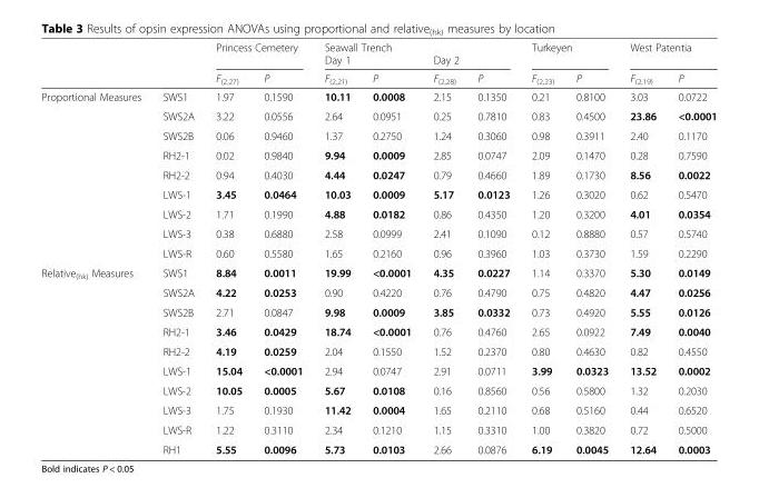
<table><thead><tr><td rowspan="3"></td><td rowspan="3"></td><td rowspan="2" colspan="2">Princess Cemetery</td><td colspan="4">Seawall Trench</td><td rowspan="2" colspan="2">Turkeyen</td><td rowspan="2" colspan="2">West Patentia</td></tr><tr><td colspan="2">Day 1</td><td colspan="2">Day 2</td></tr><tr><td>F<sub>(2,27)</sub></td><td>P</td><td>F<sub>(2,21)</sub></td><td>P</td><td>F<sub>(2,28)</sub></td><td>P</td><td>F<sub>(2,23)</sub></td><td>P</td><td>F<sub>(2,19)</sub></td><td>P</td></tr></thead><tbody><tr><td rowspan="9">Proportional Measures</td><td>SWS1</td><td>1.97</td><td>0.1590</td><td>10.11</td><td>0.0008</td><td>2.15</td><td>0.1350</td><td>0.21</td><td>0.8100</td><td>3.03</td><td>0.0722</td></tr><tr><td>SWS2A</td><td>3.22</td><td>0.0556</td><td>2.64</td><td>0.0951</td><td>0.25</td><td>0.7810</td><td>0.83</td><td>0.4500</td><td>23.86</td><td>&lt;0.0001</td></tr><tr><td>SWS2B</td><td>0.06</td><td>0.9460</td><td>1.37</td><td>0.2750</td><td>1.24</td><td>0.3060</td><td>0.98</td><td>0.3911</td><td>2.40</td><td>0.1170</td></tr><tr><td>RH2-1</td><td>0.02</td><td>0.9840</td><td>9.94</td><td>0.0009</td><td>2.85</td><td>0.0747</td><td>2.09</td><td>0.1470</td><td>0.28</td><td>0.7590</td></tr><tr><td>RH2-2</td><td>0.94</td><td>0.4030</td><td>4.44</td><td>0.0247</td><td>0.79</td><td>0.4660</td><td>1.89</td><td>0.1730</td><td>8.56</td><td>0.0022</td></tr><tr><td>LWS-1</td><td>3.45</td><td>0.0464</td><td>10.03</td><td>0.0009</td><td>5.17</td><td>0.0123</td><td>1.26</td><td>0.3020</td><td>0.62</td><td>0.5470</td></tr><tr><td>LWS-2</td><td>1.71</td><td>0.1990</td><td>4.88</td><td>0.0182</td><td>0.86</td><td>0.4350</td><td>1.20</td><td>0.3200</td><td>4.01</td><td>0.0354</td></tr><tr><td>LWS-3</td><td>0.38</td><td>0.6880</td><td>2.58</td><td>0.0999</td><td>2.41</td><td>0.1090</td><td>0.12</td><td>0.8880</td><td>0.57</td><td>0.5740</td></tr><tr><td>LWS-R</td><td>0.60</td><td>0.5580</td><td>1.65</td><td>0.2160</td><td>0.96</td><td>0.3960</td><td>1.03</td><td>0.3730</td><td>1.59</td><td>0.2290</td></tr><tr><td rowspan="10">Relative<sub>(hk)</sub> Measures</td><td>SWS1</td><td>8.84</td><td>0.0011</td><td>19.99</td><td>&lt;0.0001</td><td>4.35</td><td>0.0227</td><td>1.14</td><td>0.3370</td><td>5.30</td><td>0.0149</td></tr><tr><td>SWS2A</td><td>4.22</td><td>0.0253</td><td>0.90</td><td>0.4220</td><td>0.76</td><td>0.4790</td><td>0.75</td><td>0.4820</td><td>4.47</td><td>0.0256</td></tr><tr><td>SWS2B</td><td>2.71</td><td>0.0847</td><td>9.98</td><td>0.0009</td><td>3.85</td><td>0.0332</td><td>0.73</td><td>0.4920</td><td>5.55</td><td>0.0126</td></tr><tr><td>RH2-1</td><td>3.46</td><td>0.0429</td><td>18.74</td><td>&lt;0.0001</td><td>0.76</td><td>0.4760</td><td>2.65</td><td>0.0922</td><td>7.49</td><td>0.0040</td></tr><tr><td>RH2-2</td><td>4.19</td><td>0.0259</td><td>2.04</td><td>0.1550</td><td>1.52</td><td>0.2370</td><td>0.80</td><td>0.4630</td><td>0.82</td><td>0.4550</td></tr><tr><td>LWS-1</td><td>15.04</td><td>&lt;0.0001</td><td>2.94</td><td>0.0747</td><td>2.91</td><td>0.0711</td><td>3.99</td><td>0.0323</td><td>13.52</td><td>0.0002</td></tr><tr><td>LWS-2</td><td>10.05</td><td>0.0005</td><td>5.67</td><td>0.0108</td><td>0.16</td><td>0.8560</td><td>0.56</td><td>0.5800</td><td>1.32</td><td>0.2030</td></tr><tr><td>LWS-3</td><td>1.75</td><td>0.1930</td><td>11.42</td><td>0.0004</td><td>1.65</td><td>0.2110</td><td>0.68</td><td>0.5160</td><td>0.44</td><td>0.6520</td></tr><tr><td>LWS-R</td><td>1.22</td><td>0.3110</td><td>2.34</td><td>0.1210</td><td>1.15</td><td>0.3310</td><td>1.00</td><td>0.3820</td><td>0.72</td><td>0.5000</td></tr><tr><td>RH1</td><td>5.55</td><td>0.0096</td><td>5.73</td><td>0.0103</td><td>2.66</td><td>0.0876</td><td>6.19</td><td>0.0045</td><td>12.64</td><td>0.0003</td></tr></tbody></table>